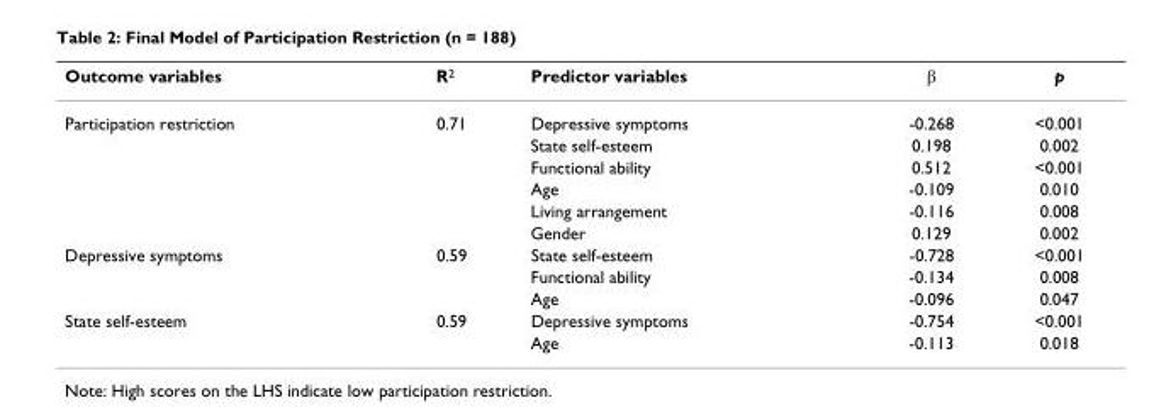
<table><thead><tr><td>Outcome variables</td><td>R<sup>2</sup></td><td>Predictor variables</td><td>β</td><td>p</td></tr></thead><tbody><tr><td rowspan="6">Participation restriction</td><td>0.71</td><td>Depressive symptoms</td><td>-0.268</td><td>&lt;0.001</td></tr><tr><td></td><td>State self-esteem</td><td>0.198</td><td>0.002</td></tr><tr><td></td><td>Functional ability</td><td>0.512</td><td>&lt;0.001</td></tr><tr><td></td><td>Age</td><td>-0.109</td><td>0.010</td></tr><tr><td></td><td>Living arrangement</td><td>-0.116</td><td>0.008</td></tr><tr><td></td><td>Gender</td><td>0.129</td><td>0.002</td></tr><tr><td rowspan="3">Depressive symptoms</td><td>0.59</td><td>State self-esteem</td><td>-0.728</td><td>&lt;0.001</td></tr><tr><td></td><td>Functional ability</td><td>-0.134</td><td>0.008</td></tr><tr><td></td><td>Age</td><td>-0.096</td><td>0.047</td></tr><tr><td rowspan="2">State self-esteem</td><td>0.59</td><td>Depressive symptoms</td><td>-0.754</td><td>&lt;0.001</td></tr><tr><td></td><td>Age</td><td>-0.113</td><td>0.018</td></tr></tbody></table>